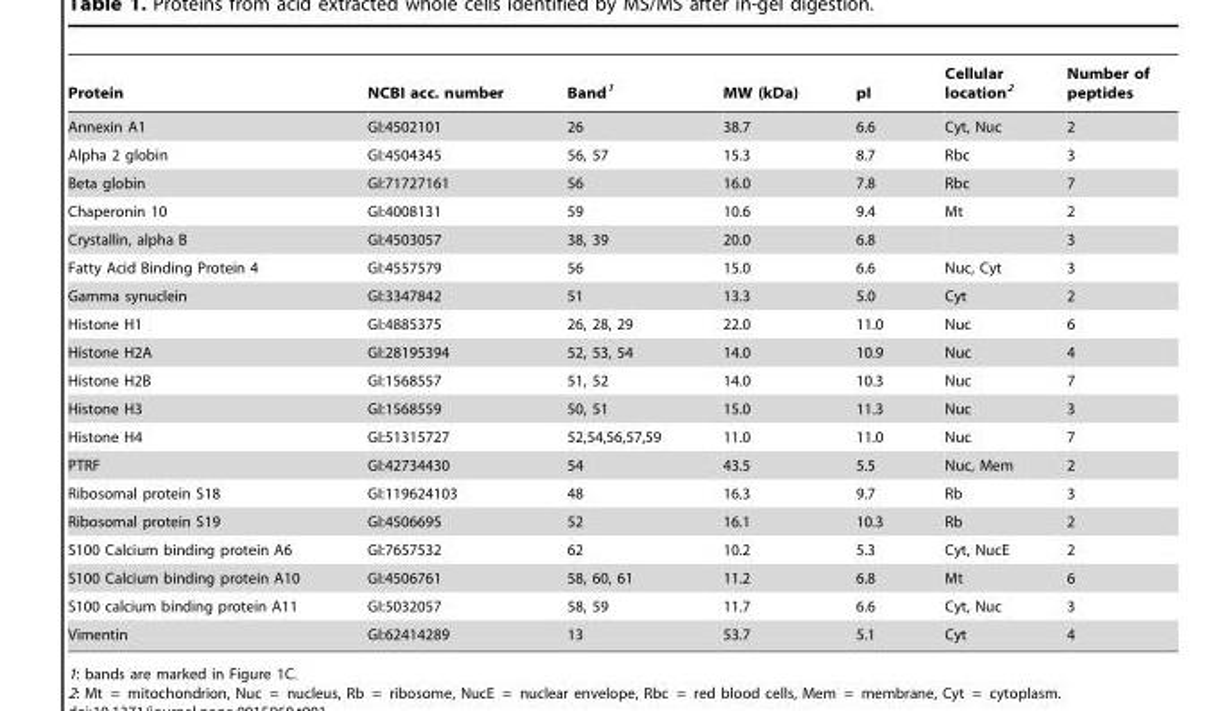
<table><thead><tr><td>Protein</td><td>NCBI acc. number</td><td>Band<sup>1</sup></td><td>MW (kDa)</td><td>pI</td><td>Cellular location<sup>2</sup></td><td>Number of peptides</td></tr></thead><tbody><tr><td>Annexin A1</td><td>GI:4502101</td><td>26</td><td>38.7</td><td>6.6</td><td>Cyt, Nuc</td><td>2</td></tr><tr><td>Alpha 2 globin</td><td>GI:4504345</td><td>56, 57</td><td>15.3</td><td>8.7</td><td>Rbc</td><td>3</td></tr><tr><td>Beta globin</td><td>GI:71727161</td><td>56</td><td>16.0</td><td>7.8</td><td>Rbc</td><td>7</td></tr><tr><td>Chaperonin 10</td><td>GI:4008131</td><td>59</td><td>10.6</td><td>9.4</td><td>Mt</td><td>2</td></tr><tr><td>Crystallin, alpha B</td><td>GI:4503057</td><td>38, 39</td><td>20.0</td><td>6.8</td><td></td><td>3</td></tr><tr><td>Fatty Acid Binding Protein 4</td><td>GI:4557579</td><td>56</td><td>15.0</td><td>6.6</td><td>Nuc, Cyt</td><td>3</td></tr><tr><td>Gamma synuclein</td><td>GI:3347842</td><td>51</td><td>13.3</td><td>5.0</td><td>Cyt</td><td>2</td></tr><tr><td>Histone H1</td><td>GI:4885375</td><td>26, 28, 29</td><td>22.0</td><td>11.0</td><td>Nuc</td><td>6</td></tr><tr><td>Histone H2A</td><td>GI:28195394</td><td>52, 53, 54</td><td>14.0</td><td>10.9</td><td>Nuc</td><td>4</td></tr><tr><td>Histone H2B</td><td>GI:1568557</td><td>51, 52</td><td>14.0</td><td>10.3</td><td>Nuc</td><td>7</td></tr><tr><td>Histone H3</td><td>GI:1568559</td><td>50, 51</td><td>15.0</td><td>11.3</td><td>Nuc</td><td>3</td></tr><tr><td>Histone H4</td><td>GI:51315727</td><td>52,54,56,57,59</td><td>11.0</td><td>11.0</td><td>Nuc</td><td>7</td></tr><tr><td>PTRF</td><td>GI:42734430</td><td>54</td><td>43.5</td><td>5.5</td><td>Nuc, Mem</td><td>2</td></tr><tr><td>Ribosomal protein S18</td><td>GI:119624103</td><td>48</td><td>16.3</td><td>9.7</td><td>Rb</td><td>3</td></tr><tr><td>Ribosomal protein S19</td><td>GI:4506695</td><td>52</td><td>16.1</td><td>10.3</td><td>Rb</td><td>2</td></tr><tr><td>S100 Calcium binding protein A6</td><td>GI:7657532</td><td>62</td><td>10.2</td><td>5.3</td><td>Cyt, NucE</td><td>2</td></tr><tr><td>S100 Calcium binding protein A10</td><td>GI:4506761</td><td>58, 60, 61</td><td>11.2</td><td>6.8</td><td>Mt</td><td>6</td></tr><tr><td>S100 calcium binding protein A11</td><td>GI:5032057</td><td>58, 59</td><td>11.7</td><td>6.6</td><td>Cyt, Nuc</td><td>3</td></tr><tr><td>Vimentin</td><td>GI:62414289</td><td>13</td><td>53.7</td><td>5.1</td><td>Cyt</td><td>4</td></tr></tbody></table>